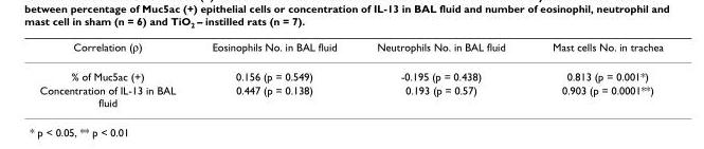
<table><thead><tr><td>Correlation (ρ)</td><td>Eosinophils No. in BAL fluid</td><td>Neutrophils No. in BAL fluid</td><td>Mast cells No. in trachea</td></tr></thead><tbody><tr><td>% of Muc5ac (+)</td><td>0.156 (p = 0.549)</td><td>-0.195 (p = 0.438)</td><td>0.813 (p = 0.001*)</td></tr><tr><td>Concentration of IL-13 in BAL fluid</td><td>0.447 (p = 0.138)</td><td>0.193 (p = 0.57)</td><td>0.903 (p = 0.0001**)</td></tr></tbody></table>